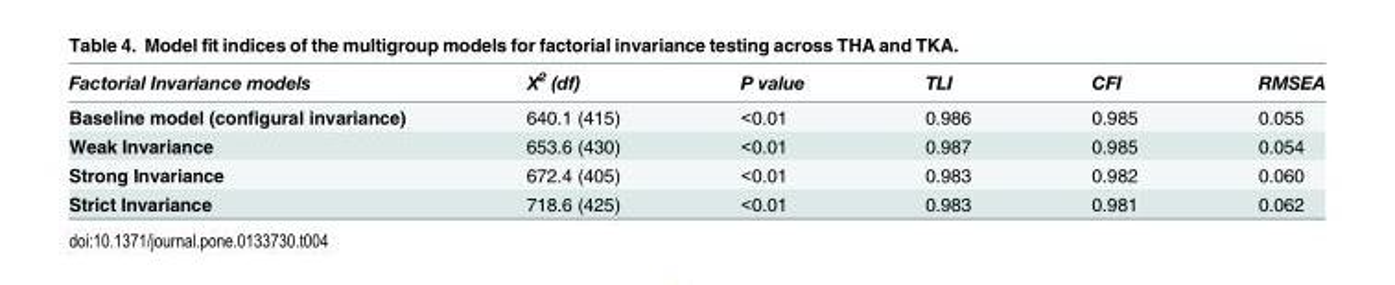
<table><thead><tr><td>Factorial Invariance models</td><td>Χ<sup>2</sup> (df)</td><td>P value</td><td>TLI</td><td>CFI</td><td>RMSEA</td></tr></thead><tbody><tr><td>Baseline model (configural invariance)</td><td>640.1 (415)</td><td>&lt;0.01</td><td>0.986</td><td>0.985</td><td>0.055</td></tr><tr><td>Weak Invariance</td><td>653.6 (430)</td><td>&lt;0.01</td><td>0.987</td><td>0.985</td><td>0.054</td></tr><tr><td>Strong Invariance</td><td>672.4 (405)</td><td>&lt;0.01</td><td>0.983</td><td>0.982</td><td>0.060</td></tr><tr><td>Strict Invariance</td><td>718.6 (425)</td><td>&lt;0.01</td><td>0.983</td><td>0.981</td><td>0.062</td></tr></tbody></table>